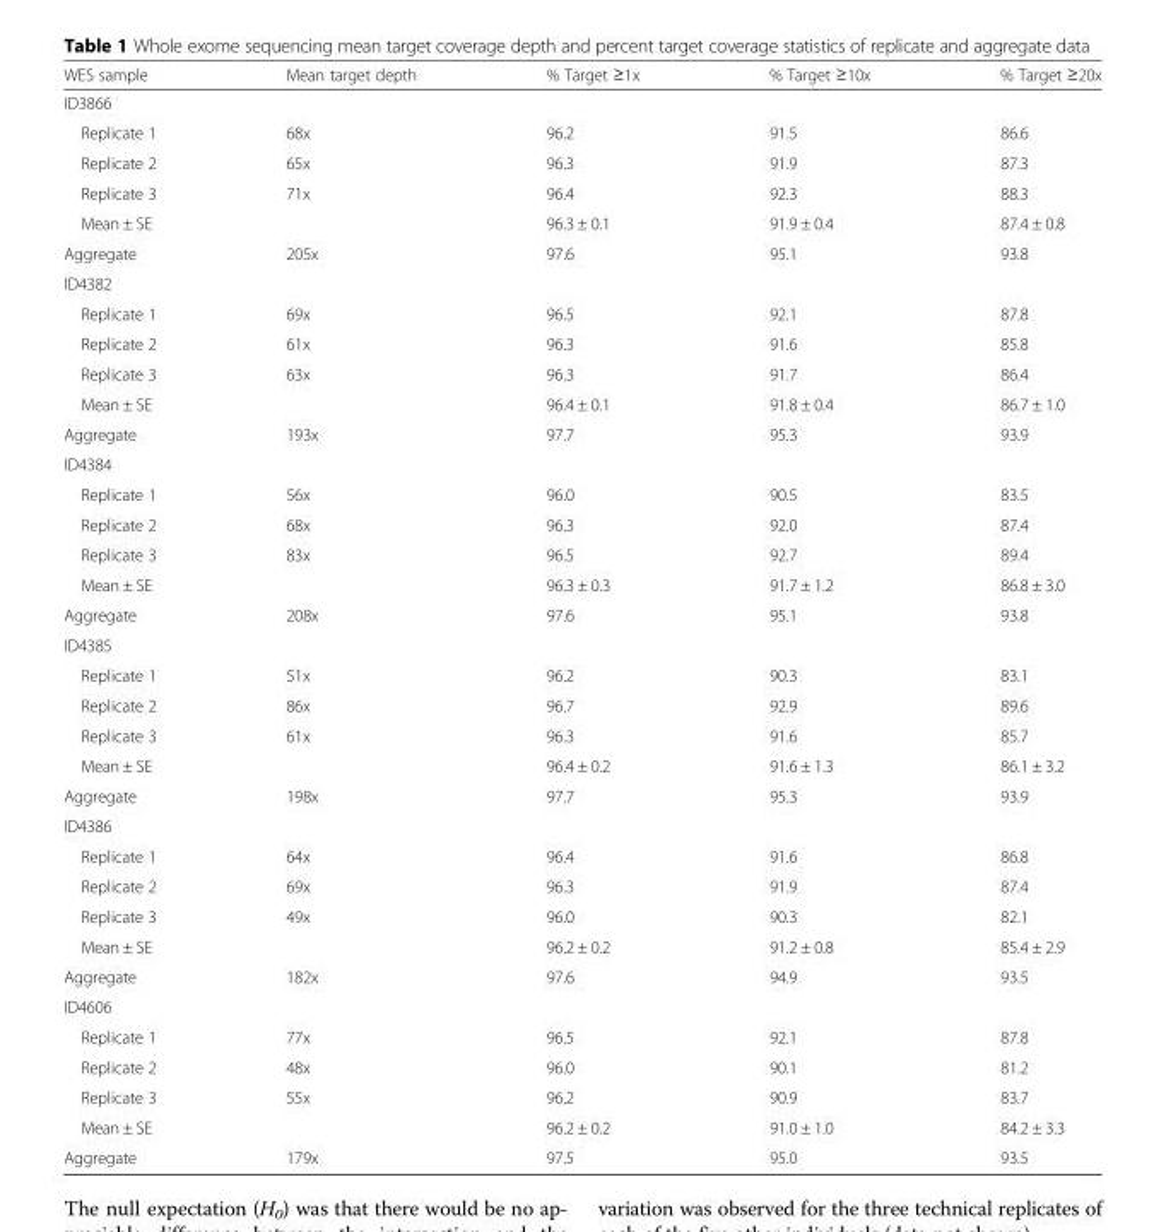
<table><thead><tr><td>WES sample</td><td>Mean target depth</td><td>% Target ≥1x</td><td>% Target ≥10x</td><td>% Target ≥20x</td></tr></thead><tbody><tr><td colspan="5">ID3866</td></tr><tr><td>Replicate 1</td><td>68x</td><td>96.2</td><td>91.5</td><td>86.6</td></tr><tr><td>Replicate 2</td><td>65x</td><td>96.3</td><td>91.9</td><td>87.3</td></tr><tr><td>Replicate 3</td><td>71x</td><td>96.4</td><td>92.3</td><td>88.3</td></tr><tr><td>Mean ± SE</td><td></td><td>96.3 ± 0.1</td><td>91.9 ± 0.4</td><td>87.4 ± 0.8</td></tr><tr><td>Aggregate</td><td>205x</td><td>97.6</td><td>95.1</td><td>93.8</td></tr><tr><td colspan="5">ID4382</td></tr><tr><td>Replicate 1</td><td>69x</td><td>96.5</td><td>92.1</td><td>87.8</td></tr><tr><td>Replicate 2</td><td>61x</td><td>96.3</td><td>91.6</td><td>85.8</td></tr><tr><td>Replicate 3</td><td>63x</td><td>96.3</td><td>91.7</td><td>86.4</td></tr><tr><td>Mean ± SE</td><td></td><td>96.4 ± 0.1</td><td>91.8 ± 0.4</td><td>86.7 ± 1.0</td></tr><tr><td>Aggregate</td><td>193x</td><td>97.7</td><td>95.3</td><td>93.9</td></tr><tr><td colspan="5">ID4384</td></tr><tr><td>Replicate 1</td><td>56x</td><td>96.0</td><td>90.5</td><td>83.5</td></tr><tr><td>Replicate 2</td><td>68x</td><td>96.3</td><td>92.0</td><td>87.4</td></tr><tr><td>Replicate 3</td><td>83x</td><td>96.5</td><td>92.7</td><td>89.4</td></tr><tr><td>Mean ± SE</td><td></td><td>96.3 ± 0.3</td><td>91.7 ± 1.2</td><td>86.8 ± 3.0</td></tr><tr><td>Aggregate</td><td>208x</td><td>97.6</td><td>95.1</td><td>93.8</td></tr><tr><td colspan="5">ID4385</td></tr><tr><td>Replicate 1</td><td>51x</td><td>96.2</td><td>90.3</td><td>83.1</td></tr><tr><td>Replicate 2</td><td>86x</td><td>96.7</td><td>92.9</td><td>89.6</td></tr><tr><td>Replicate 3</td><td>61x</td><td>96.3</td><td>91.6</td><td>85.7</td></tr><tr><td>Mean ± SE</td><td></td><td>96.4 ± 0.2</td><td>91.6 ± 1.3</td><td>86.1 ± 3.2</td></tr><tr><td>Aggregate</td><td>198x</td><td>97.7</td><td>95.3</td><td>93.9</td></tr><tr><td colspan="5">ID4386</td></tr><tr><td>Replicate 1</td><td>64x</td><td>96.4</td><td>91.6</td><td>86.8</td></tr><tr><td>Replicate 2</td><td>69x</td><td>96.3</td><td>91.9</td><td>87.4</td></tr><tr><td>Replicate 3</td><td>49x</td><td>96.0</td><td>90.3</td><td>82.1</td></tr><tr><td>Mean ± SE</td><td></td><td>96.2 ± 0.2</td><td>91.2 ± 0.8</td><td>85.4 ± 2.9</td></tr><tr><td>Aggregate</td><td>182x</td><td>97.6</td><td>94.9</td><td>93.5</td></tr><tr><td colspan="5">ID4606</td></tr><tr><td>Replicate 1</td><td>77x</td><td>96.5</td><td>92.1</td><td>87.8</td></tr><tr><td>Replicate 2</td><td>48x</td><td>96.0</td><td>90.1</td><td>81.2</td></tr><tr><td>Replicate 3</td><td>55x</td><td>96.2</td><td>90.9</td><td>83.7</td></tr><tr><td>Mean ± SE</td><td></td><td>96.2 ± 0.2</td><td>91.0 ± 1.0</td><td>84.2 ± 3.3</td></tr><tr><td>Aggregate</td><td>179x</td><td>97.5</td><td>95.0</td><td>93.5</td></tr></tbody></table>